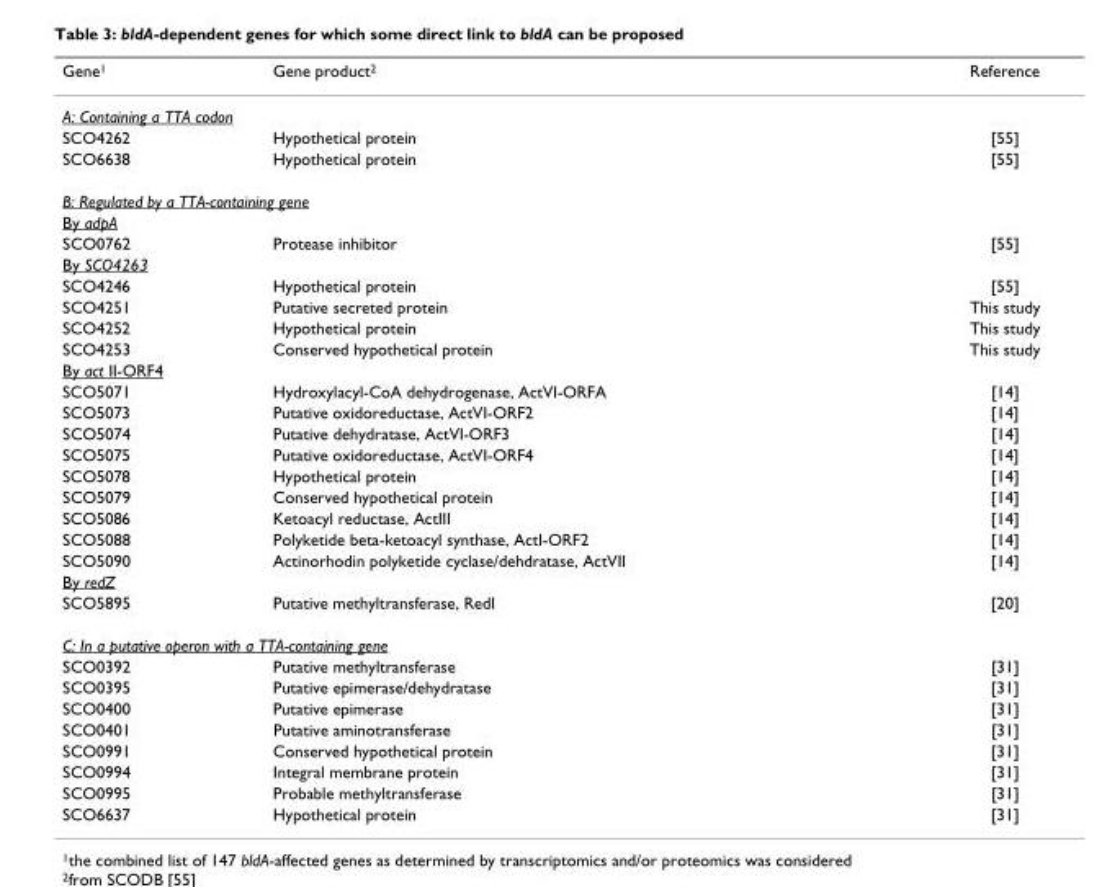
<table><thead><tr><td>Gene<sup>1</sup></td><td>Gene product<sup>2</sup></td><td>Reference</td></tr></thead><tbody><tr><td colspan="3">A: Containing a TTA codon</td></tr><tr><td>SCO4262</td><td>Hypothetical protein</td><td>[55]</td></tr><tr><td>SCO6638</td><td>Hypothetical protein</td><td>[55]</td></tr><tr><td colspan="3">B: Regulated by a TTA-containing gene</td></tr><tr><td colspan="3">By adpA</td></tr><tr><td>SCO0762</td><td>Protease inhibitor</td><td>[55]</td></tr><tr><td colspan="3">By SCO4263</td></tr><tr><td>SCO4246</td><td>Hypothetical protein</td><td>[55]</td></tr><tr><td>SCO4251</td><td>Putative secreted protein</td><td>This study</td></tr><tr><td>SCO4252</td><td>Hypothetical protein</td><td>This study</td></tr><tr><td>SCO4253</td><td>Conserved hypothetical protein</td><td>This study</td></tr><tr><td colspan="3">By act II-ORF4</td></tr><tr><td>SCO5071</td><td>Hydroxylacyl-CoA dehydrogenase, ActVI-ORFA</td><td>[14]</td></tr><tr><td>SCO5073</td><td>Putative oxidoreductase, ActVI-ORF2</td><td>[14]</td></tr><tr><td>SCO5074</td><td>Putative dehydratase, ActVI-ORF3</td><td>[14]</td></tr><tr><td>SCO5075</td><td>Putative oxidoreductase, ActVI-ORF4</td><td>[14]</td></tr><tr><td>SCO5078</td><td>Hypothetical protein</td><td>[14]</td></tr><tr><td>SCO5079</td><td>Conserved hypothetical protein</td><td>[14]</td></tr><tr><td>SCO5086</td><td>Ketoacyl reductase, ActIII</td><td>[14]</td></tr><tr><td>SCO5088</td><td>Polyketide beta-ketoacyl synthase, ActI-ORF2</td><td>[14]</td></tr><tr><td>SCO5090</td><td>Actinorhodin polyketide cyclase/dehdratase, ActVII</td><td>[14]</td></tr><tr><td colspan="3">By redZ</td></tr><tr><td>SCO5895</td><td>Putative methyltransferase, RedI</td><td>[20]</td></tr><tr><td colspan="3">C: In a putative operon with a TTA-containing gene</td></tr><tr><td>SCO0392</td><td>Putative methyltransferase</td><td>[31]</td></tr><tr><td>SCO0395</td><td>Putative epimerase/dehydratase</td><td>[31]</td></tr><tr><td>SCO0400</td><td>Putative epimerase</td><td>[31]</td></tr><tr><td>SCO0401</td><td>Putative aminotransferase</td><td>[31]</td></tr><tr><td>SCO0991</td><td>Conserved hypothetical protein</td><td>[31]</td></tr><tr><td>SCO0994</td><td>Integral membrane protein</td><td>[31]</td></tr><tr><td>SCO0995</td><td>Probable methyltransferase</td><td>[31]</td></tr><tr><td>SCO6637</td><td>Hypothetical protein</td><td>[31]</td></tr></tbody></table>